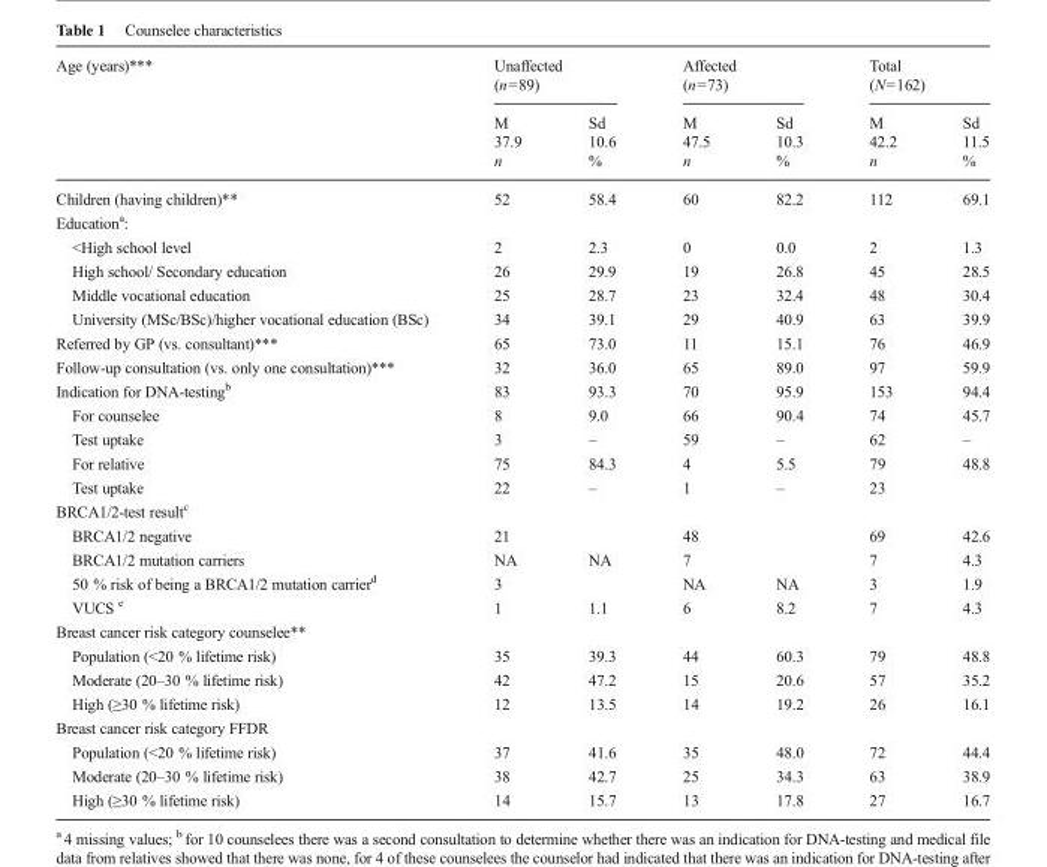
<table><thead><tr><td rowspan="4">Age (years)***</td><td colspan="2">Unaffected (n=89)</td><td colspan="2">Affected (n=73)</td><td colspan="2">Total (N=162)</td></tr><tr><td rowspan="3">M 37.9 n</td><td rowspan="3">Sd 10.6 %</td><td rowspan="3">M 47.5 n</td><td rowspan="3">Sd 10.3 %</td><td rowspan="3">M 42.2 n</td><td rowspan="3">Sd 11.5 %</td></tr><tr></tr><tr></tr></thead><tbody><tr><td>Children (having children)**</td><td>52</td><td>58.4</td><td>60</td><td>82.2</td><td>112</td><td>69.1</td></tr><tr><td colspan="7">Education<sup>a</sup>:</td></tr><tr><td>&lt;High school level</td><td>2</td><td>2.3</td><td>0</td><td>0.0</td><td>2</td><td>1.3</td></tr><tr><td>High school/ Secondary education</td><td>26</td><td>29.9</td><td>19</td><td>26.8</td><td>45</td><td>28.5</td></tr><tr><td>Middle vocational education</td><td>25</td><td>28.7</td><td>23</td><td>32.4</td><td>48</td><td>30.4</td></tr><tr><td>University (MSc/BSc)/higher vocational education (BSc)</td><td>34</td><td>39.1</td><td>29</td><td>40.9</td><td>63</td><td>39.9</td></tr><tr><td>Referred by GP (vs. consultant)***</td><td>65</td><td>73.0</td><td>11</td><td>15.1</td><td>76</td><td>46.9</td></tr><tr><td>Follow-up consultation (vs. only one consultation)***</td><td>32</td><td>36.0</td><td>65</td><td>89.0</td><td>97</td><td>59.9</td></tr><tr><td>Indication for DNA-testing<sup>b</sup></td><td>83</td><td>93.3</td><td>70</td><td>95.9</td><td>153</td><td>94.4</td></tr><tr><td>For counselee</td><td>8</td><td>9.0</td><td>66</td><td>90.4</td><td>74</td><td>45.7</td></tr><tr><td>Test uptake</td><td>3</td><td>–</td><td>59</td><td>–</td><td>62</td><td>–</td></tr><tr><td>For relative</td><td>75</td><td>84.3</td><td>4</td><td>5.5</td><td>79</td><td>48.8</td></tr><tr><td>Test uptake</td><td>22</td><td>–</td><td>1</td><td>–</td><td>23</td><td></td></tr><tr><td colspan="7">BRCA1/2-test result<sup>c</sup></td></tr><tr><td>BRCA1/2 negative</td><td>21</td><td></td><td>48</td><td></td><td>69</td><td>42.6</td></tr><tr><td>BRCA1/2 mutation carriers</td><td>NA</td><td>NA</td><td>7</td><td></td><td>7</td><td>4.3</td></tr><tr><td>50 % risk of being a BRCA1/2 mutation carrier<sup>d</sup></td><td>3</td><td></td><td>NA</td><td>NA</td><td>3</td><td>1.9</td></tr><tr><td>VUCS <sup>e</sup></td><td>1</td><td>1.1</td><td>6</td><td>8.2</td><td>7</td><td>4.3</td></tr><tr><td colspan="7">Breast cancer risk category counselee**</td></tr><tr><td>Population (&lt;20 % lifetime risk)</td><td>35</td><td>39.3</td><td>44</td><td>60.3</td><td>79</td><td>48.8</td></tr><tr><td>Moderate (20–30 % lifetime risk)</td><td>42</td><td>47.2</td><td>15</td><td>20.6</td><td>57</td><td>35.2</td></tr><tr><td>High (≥30 % lifetime risk)</td><td>12</td><td>13.5</td><td>14</td><td>19.2</td><td>26</td><td>16.1</td></tr><tr><td colspan="7">Breast cancer risk category FFDR</td></tr><tr><td>Population (&lt;20 % lifetime risk)</td><td>37</td><td>41.6</td><td>35</td><td>48.0</td><td>72</td><td>44.4</td></tr><tr><td>Moderate (20–30 % lifetime risk)</td><td>38</td><td>42.7</td><td>25</td><td>34.3</td><td>63</td><td>38.9</td></tr><tr><td>High (≥30 % lifetime risk)</td><td>14</td><td>15.7</td><td>13</td><td>17.8</td><td>27</td><td>16.7</td></tr></tbody></table>